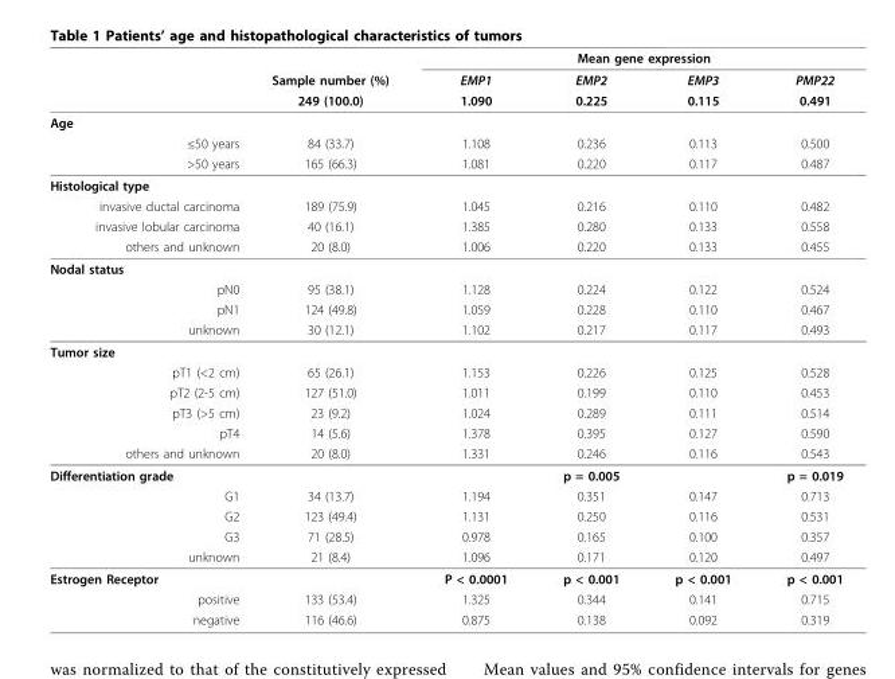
<table><thead><tr><td rowspan="3"></td><td rowspan="3">Sample number (%) 249 (100.0)</td><td colspan="4">Mean gene expression</td></tr><tr><td rowspan="2">EMP1 1.090</td><td rowspan="2">EMP2 0.225</td><td rowspan="2">EMP3 0.115</td><td rowspan="2">PMP22 0.491</td></tr><tr></tr></thead><tbody><tr><td colspan="6">Age</td></tr><tr><td>≤50 years</td><td>84 (33.7)</td><td>1.108</td><td>0.236</td><td>0.113</td><td>0.500</td></tr><tr><td>&gt;50 years</td><td>165 (66.3)</td><td>1.081</td><td>0.220</td><td>0.117</td><td>0.487</td></tr><tr><td colspan="6">Histological type</td></tr><tr><td>invasive ductal carcinoma</td><td>189 (75.9)</td><td>1.045</td><td>0.216</td><td>0.110</td><td>0.482</td></tr><tr><td>invasive lobular carcinoma</td><td>40 (16.1)</td><td>1.385</td><td>0.280</td><td>0.133</td><td>0.558</td></tr><tr><td>others and unknown</td><td>20 (8.0)</td><td>1.006</td><td>0.220</td><td>0.133</td><td>0.455</td></tr><tr><td colspan="6">Nodal status</td></tr><tr><td>pN0</td><td>95 (38.1)</td><td>1.128</td><td>0.224</td><td>0.122</td><td>0.524</td></tr><tr><td>pN1</td><td>124 (49.8)</td><td>1.059</td><td>0.228</td><td>0.110</td><td>0.467</td></tr><tr><td>unknown</td><td>30 (12.1)</td><td>1.102</td><td>0.217</td><td>0.117</td><td>0.493</td></tr><tr><td colspan="6">Tumor size</td></tr><tr><td>pT1 (&lt;2 cm)</td><td>65 (26.1)</td><td>1.153</td><td>0.226</td><td>0.125</td><td>0.528</td></tr><tr><td>pT2 (2-5 cm)</td><td>127 (51.0)</td><td>1.011</td><td>0.199</td><td>0.110</td><td>0.453</td></tr><tr><td>pT3 (&gt;5 cm)</td><td>23 (9.2)</td><td>1.024</td><td>0.289</td><td>0.111</td><td>0.514</td></tr><tr><td>pT4</td><td>14 (5.6)</td><td>1.378</td><td>0.395</td><td>0.127</td><td>0.590</td></tr><tr><td>others and unknown</td><td>20 (8.0)</td><td>1.331</td><td>0.246</td><td>0.116</td><td>0.543</td></tr><tr><td>Differentiation grade</td><td></td><td></td><td>p = 0.005</td><td></td><td>p = 0.019</td></tr><tr><td>G1</td><td>34 (13.7)</td><td>1.194</td><td>0.351</td><td>0.147</td><td>0.713</td></tr><tr><td>G2</td><td>123 (49.4)</td><td>1.131</td><td>0.250</td><td>0.116</td><td>0.531</td></tr><tr><td>G3</td><td>71 (28.5)</td><td>0.978</td><td>0.165</td><td>0.100</td><td>0.357</td></tr><tr><td>unknown</td><td>21 (8.4)</td><td>1.096</td><td>0.171</td><td>0.120</td><td>0.497</td></tr><tr><td>Estrogen Receptor</td><td></td><td>P &lt; 0.0001</td><td>p &lt; 0.001</td><td>p &lt; 0.001</td><td>p &lt; 0.001</td></tr><tr><td>positive</td><td>133 (53.4)</td><td>1.325</td><td>0.344</td><td>0.141</td><td>0.715</td></tr><tr><td>negative</td><td>116 (46.6)</td><td>0.875</td><td>0.138</td><td>0.092</td><td>0.319</td></tr></tbody></table>